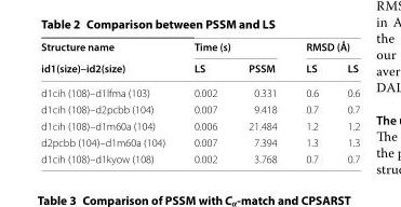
<table><thead><tr><td rowspan="2">Structure name id1(size)–id2(size)</td><td colspan="2">Time (s)</td><td colspan="2">RMSD (Å)</td></tr><tr><td>LS</td><td>PSSM</td><td>LS</td><td>LS</td></tr></thead><tbody><tr><td>d1cih (108)–d1lfma (103)</td><td>0.002</td><td>0.331</td><td>0.6</td><td>0.6</td></tr><tr><td>d1cih (108)–d2pcbb (104)</td><td>0.007</td><td>9.418</td><td>0.7</td><td>0.7</td></tr><tr><td>d1cih (108)–d1m60a (104)</td><td>0.006</td><td>21.484</td><td>1.2</td><td>1.2</td></tr><tr><td>d2pcbb (104)–d1m60a (104)</td><td>0.007</td><td>7.394</td><td>1.3</td><td>1.3</td></tr><tr><td>d1cih (108)–d1kyow (108)</td><td>0.002</td><td>3.768</td><td>0.7</td><td>0.7</td></tr></tbody></table>